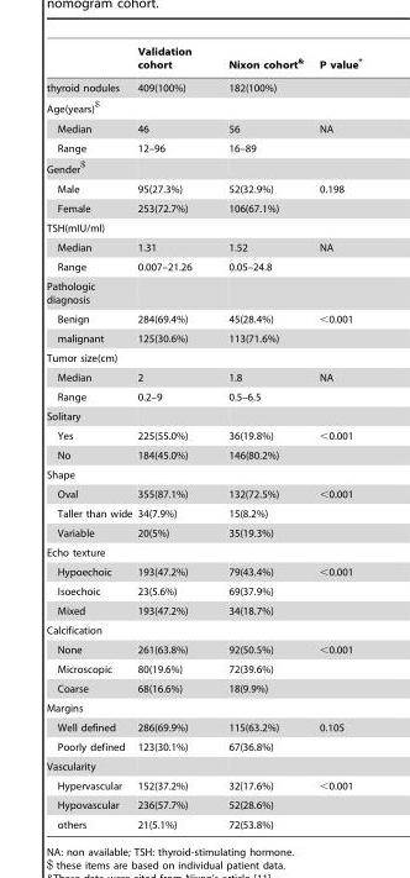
<table><thead><tr><td></td><td>Validation cohort</td><td>Nixon cohort<sup>&amp;</sup></td><td>P value*</td></tr></thead><tbody><tr><td>thyroid nodules</td><td>409(100%)</td><td>182(100%)</td><td></td></tr><tr><td colspan="4">Age(years)<sup>$</sup></td></tr><tr><td>Median</td><td>46</td><td>56</td><td>NA</td></tr><tr><td>Range</td><td>12–96</td><td>16–89</td><td></td></tr><tr><td colspan="4">Gender<sup>$</sup></td></tr><tr><td>Male</td><td>95(27.3%)</td><td>52(32.9%)</td><td>0.198</td></tr><tr><td>Female</td><td>253(72.7%)</td><td>106(67.1%)</td><td></td></tr><tr><td colspan="4">TSH(mIU/ml)</td></tr><tr><td>Median</td><td>1.31</td><td>1.52</td><td>NA</td></tr><tr><td>Range</td><td>0.007–21.26</td><td>0.05–24.8</td><td></td></tr><tr><td colspan="4">Pathologic diagnosis</td></tr><tr><td>Benign</td><td>284(69.4%)</td><td>45(28.4%)</td><td>&lt;0.001</td></tr><tr><td>malignant</td><td>125(30.6%)</td><td>113(71.6%)</td><td></td></tr><tr><td colspan="4">Tumor size(cm)</td></tr><tr><td>Median</td><td>2</td><td>1.8</td><td>NA</td></tr><tr><td>Range</td><td>0.2–9</td><td>0.5–6.5</td><td></td></tr><tr><td colspan="4">Solitary</td></tr><tr><td>Yes</td><td>225(55.0%)</td><td>36(19.8%)</td><td>&lt;0.001</td></tr><tr><td>No</td><td>184(45.0%)</td><td>146(80.2%)</td><td></td></tr><tr><td colspan="4">Shape</td></tr><tr><td>Oval</td><td>355(87.1%)</td><td>132(72.5%)</td><td>&lt;0.001</td></tr><tr><td>Taller than wide</td><td>34(7.9%)</td><td>15(8.2%)</td><td></td></tr><tr><td>Variable</td><td>20(5%)</td><td>35(19.3%)</td><td></td></tr><tr><td colspan="4">Echo texture</td></tr><tr><td>Hypoechoic</td><td>193(47.2%)</td><td>79(43.4%)</td><td>&lt;0.001</td></tr><tr><td>Isoechoic</td><td>23(5.6%)</td><td>69(37.9%)</td><td></td></tr><tr><td>Mixed</td><td>193(47.2%)</td><td>34(18.7%)</td><td></td></tr><tr><td colspan="4">Calcification</td></tr><tr><td>None</td><td>261(63.8%)</td><td>92(50.5%)</td><td>&lt;0.001</td></tr><tr><td>Microscopic</td><td>80(19.6%)</td><td>72(39.6%)</td><td></td></tr><tr><td>Coarse</td><td>68(16.6%)</td><td>18(9.9%)</td><td></td></tr><tr><td colspan="4">Margins</td></tr><tr><td>Well defined</td><td>286(69.9%)</td><td>115(63.2%)</td><td>0.105</td></tr><tr><td>Poorly defined</td><td>123(30.1%)</td><td>67(36.8%)</td><td></td></tr><tr><td colspan="4">Vascularity</td></tr><tr><td>Hypervascular</td><td>152(37.2%)</td><td>32(17.6%)</td><td>&lt;0.001</td></tr><tr><td>Hypovascular</td><td>236(57.7%)</td><td>52(28.6%)</td><td></td></tr><tr><td>others</td><td>21(5.1%)</td><td>72(53.8%)</td><td></td></tr></tbody></table>